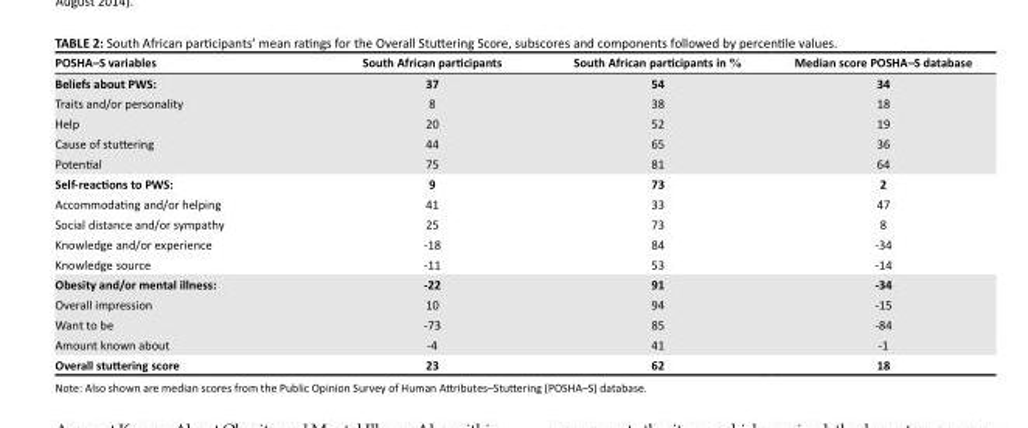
<table><thead><tr><td>POSHA–S variables</td><td>South African participants</td><td>South African participants in %</td><td>Median score POSHA–S database</td></tr></thead><tbody><tr><td>Beliefs about PWS:</td><td>37</td><td>54</td><td>34</td></tr><tr><td>Traits and/or personality</td><td>8</td><td>38</td><td>18</td></tr><tr><td>Help</td><td>20</td><td>52</td><td>19</td></tr><tr><td>Cause of stuttering</td><td>44</td><td>65</td><td>36</td></tr><tr><td>Potential</td><td>75</td><td>81</td><td>64</td></tr><tr><td>Self-reactions to PWS:</td><td>9</td><td>73</td><td>2</td></tr><tr><td>Accommodating and/or helping</td><td>41</td><td>33</td><td>47</td></tr><tr><td>Social distance and/or sympathy</td><td>25</td><td>73</td><td>8</td></tr><tr><td>Knowledge and/or experience</td><td>-18</td><td>84</td><td>-34</td></tr><tr><td>Knowledge source</td><td>-11</td><td>53</td><td>-14</td></tr><tr><td>Obesity and/or mental illness:</td><td>-22</td><td>91</td><td>-34</td></tr><tr><td>Overall impression</td><td>10</td><td>94</td><td>-15</td></tr><tr><td>Want to be</td><td>-73</td><td>85</td><td>-84</td></tr><tr><td>Amount known about</td><td>-4</td><td>41</td><td>-1</td></tr><tr><td>Overall stuttering score</td><td>23</td><td>62</td><td>18</td></tr></tbody></table>